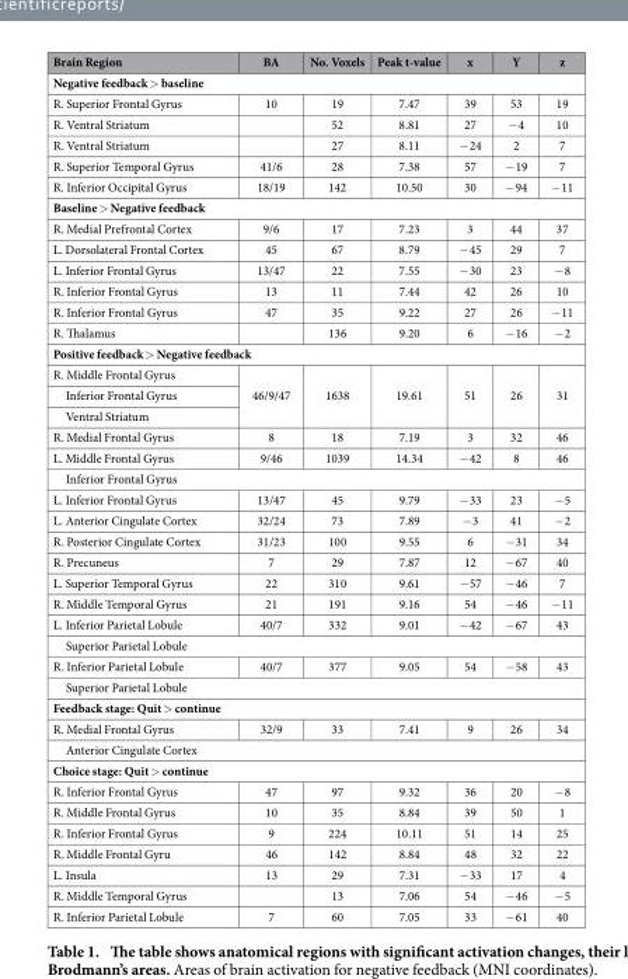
<table><thead><tr><td>Brain Region</td><td>BA</td><td>No. Voxels</td><td>Peak t-value</td><td>x</td><td>Y</td><td>z</td></tr></thead><tbody><tr><td colspan="7">Negative feedback &gt; baseline</td></tr><tr><td>R. Superior Frontal Gyrus</td><td>10</td><td>19</td><td>7.47</td><td>39</td><td>53</td><td>19</td></tr><tr><td>R. Ventral Striatum</td><td></td><td>52</td><td>8.81</td><td>27</td><td>− 4</td><td>10</td></tr><tr><td>R. Ventral Striatum</td><td></td><td>27</td><td>8.11</td><td>− 24</td><td>2</td><td>7</td></tr><tr><td>R. Superior Temporal Gyrus</td><td>41/6</td><td>28</td><td>7.38</td><td>57</td><td>− 19</td><td>7</td></tr><tr><td>R. Inferior Occipital Gyrus</td><td>18/19</td><td>142</td><td>10.50</td><td>30</td><td>− 94</td><td>− 11</td></tr><tr><td colspan="7">Baseline &gt; Negative feedback</td></tr><tr><td>R. Medial Prefrontal Cortex</td><td>9/6</td><td>17</td><td>7.23</td><td>3</td><td>44</td><td>37</td></tr><tr><td>L. Dorsolateral Frontal Cortex</td><td>45</td><td>67</td><td>8.79</td><td>− 45</td><td>29</td><td>7</td></tr><tr><td>L. Inferior Frontal Gyrus</td><td>13/47</td><td>22</td><td>7.55</td><td>− 30</td><td>23</td><td>− 8</td></tr><tr><td>R. Inferior Frontal Gyrus</td><td>13</td><td>11</td><td>7.44</td><td>42</td><td>26</td><td>10</td></tr><tr><td>R. Inferior Frontal Gyrus</td><td>47</td><td>35</td><td>9.22</td><td>27</td><td>26</td><td>− 11</td></tr><tr><td>R. Thalamus</td><td></td><td>136</td><td>9.20</td><td>6</td><td>− 16</td><td>− 2</td></tr><tr><td colspan="7">Positive feedback &gt; Negative feedback</td></tr><tr><td>R. Middle Frontal Gyrus</td><td rowspan="3">46/9/47</td><td rowspan="3">1638</td><td rowspan="3">19.61</td><td rowspan="3">51</td><td rowspan="3">26</td><td rowspan="3">31</td></tr><tr><td>Inferior Frontal Gyrus</td></tr><tr><td>Ventral Striatum</td></tr><tr><td>R. Medial Frontal Gyrus</td><td>8</td><td>18</td><td>7.19</td><td>3</td><td>32</td><td>46</td></tr><tr><td>L. Middle Frontal Gyrus</td><td>9/46</td><td>1039</td><td>14.34</td><td>− 42</td><td>8</td><td>46</td></tr><tr><td colspan="7">Inferior Frontal Gyrus</td></tr><tr><td>L. Inferior Frontal Gyrus</td><td>13/47</td><td>45</td><td>9.79</td><td>− 33</td><td>23</td><td>− 5</td></tr><tr><td>L. Anterior Cingulate Cortex</td><td>32/24</td><td>73</td><td>7.89</td><td>− 3</td><td>41</td><td>− 2</td></tr><tr><td>R. Posterior Cingulate Cortex</td><td>31/23</td><td>100</td><td>9.55</td><td>6</td><td>− 31</td><td>34</td></tr><tr><td>R. Precuneus</td><td>7</td><td>29</td><td>7.87</td><td>12</td><td>− 67</td><td>40</td></tr><tr><td>L. Superior Temporal Gyrus</td><td>22</td><td>310</td><td>9.61</td><td>− 57</td><td>− 46</td><td>7</td></tr><tr><td>R. Middle Temporal Gyrus</td><td>21</td><td>191</td><td>9.16</td><td>54</td><td>− 46</td><td>− 11</td></tr><tr><td>L. Inferior Parietal Lobule</td><td>40/7</td><td>332</td><td>9.01</td><td>− 42</td><td>− 67</td><td>43</td></tr><tr><td colspan="7">Superior Parietal Lobule</td></tr><tr><td>R. Inferior Parietal Lobule</td><td>40/7</td><td>377</td><td>9.05</td><td>54</td><td>− 58</td><td>43</td></tr><tr><td colspan="7">Superior Parietal Lobule</td></tr><tr><td colspan="7">Feedback stage: Quit &gt; continue</td></tr><tr><td>R. Medial Frontal Gyrus</td><td>32/9</td><td>33</td><td>7.41</td><td>9</td><td>26</td><td>34</td></tr><tr><td colspan="7">Anterior Cingulate Cortex</td></tr><tr><td colspan="7">Choice stage: Quit &gt; continue</td></tr><tr><td>R. Inferior Frontal Gyrus</td><td>47</td><td>97</td><td>9.32</td><td>36</td><td>20</td><td>− 8</td></tr><tr><td>R. Middle Frontal Gyrus</td><td>10</td><td>35</td><td>8.84</td><td>39</td><td>50</td><td>1</td></tr><tr><td>R. Inferior Frontal Gyrus</td><td>9</td><td>224</td><td>10.11</td><td>51</td><td>14</td><td>25</td></tr><tr><td>R. Middle Frontal Gyru</td><td>46</td><td>142</td><td>8.84</td><td>48</td><td>32</td><td>22</td></tr><tr><td>L. Insula</td><td>13</td><td>29</td><td>7.31</td><td>− 33</td><td>17</td><td>4</td></tr><tr><td>R. Middle Temporal Gyrus</td><td></td><td>13</td><td>7.06</td><td>54</td><td>− 46</td><td>− 5</td></tr><tr><td>R. Inferior Parietal Lobule</td><td>7</td><td>60</td><td>7.05</td><td>33</td><td>− 61</td><td>40</td></tr></tbody></table>